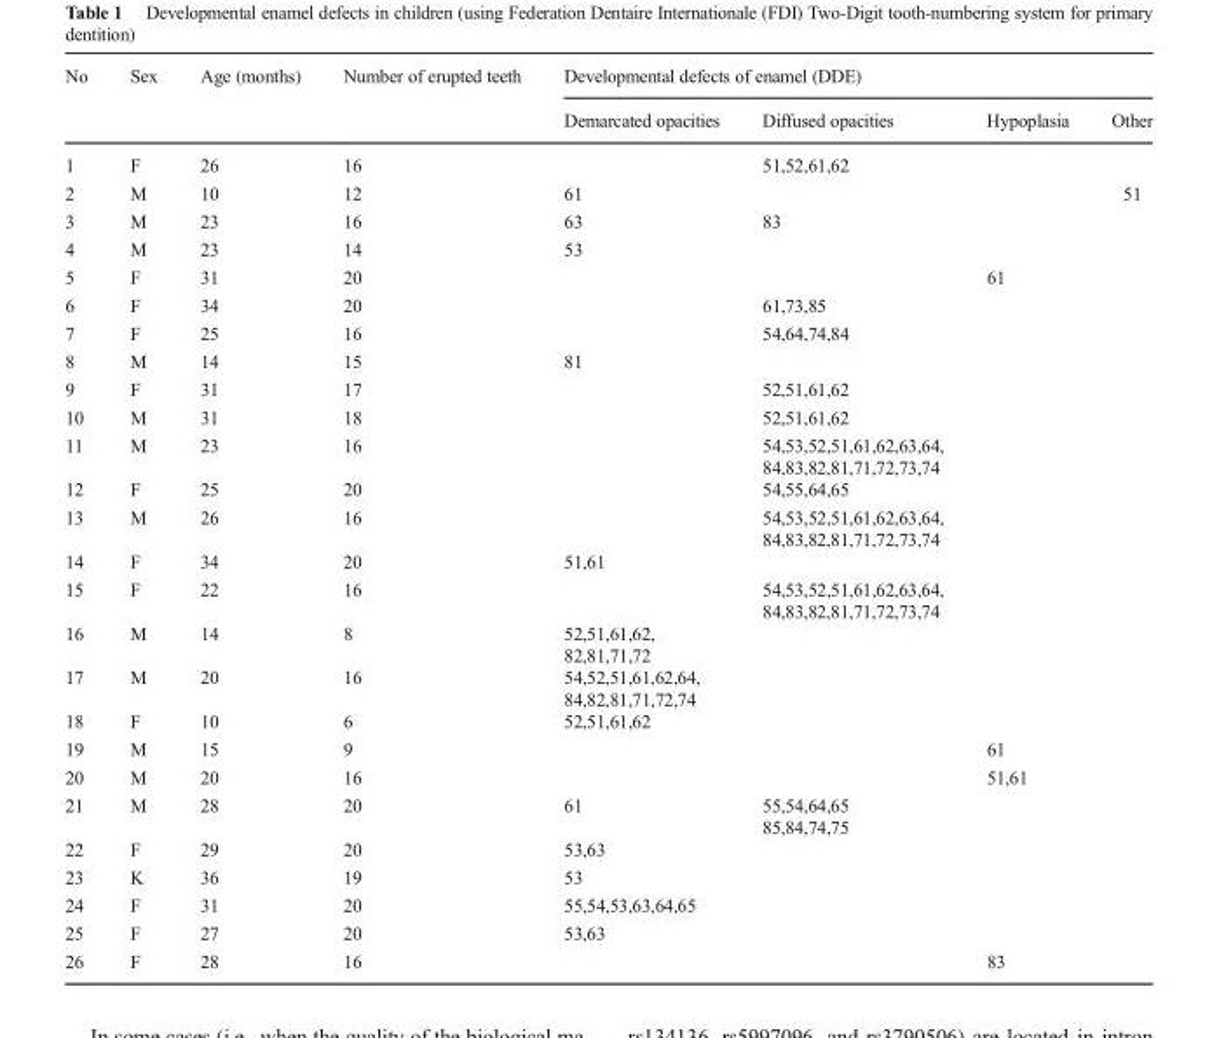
<table><thead><tr><td rowspan="2">No</td><td rowspan="2">Sex</td><td rowspan="2">Age (months)</td><td rowspan="2">Number of erupted teeth</td><td colspan="4">Developmental defects of enamel (DDE)</td></tr><tr><td>Demarcated opacities</td><td>Diffused opacities</td><td>Hypoplasia</td><td>Other</td></tr></thead><tbody><tr><td>1</td><td>F</td><td>26</td><td>16</td><td></td><td>51,52,61,62</td><td></td><td></td></tr><tr><td>2</td><td>M</td><td>10</td><td>12</td><td>61</td><td></td><td></td><td>51</td></tr><tr><td>3</td><td>M</td><td>23</td><td>16</td><td>63</td><td>83</td><td></td><td></td></tr><tr><td>4</td><td>M</td><td>23</td><td>14</td><td>53</td><td></td><td></td><td></td></tr><tr><td>5</td><td>F</td><td>31</td><td>20</td><td></td><td></td><td>61</td><td></td></tr><tr><td>6</td><td>F</td><td>34</td><td>20</td><td></td><td>61,73,85</td><td></td><td></td></tr><tr><td>7</td><td>F</td><td>25</td><td>16</td><td></td><td>54,64,74,84</td><td></td><td></td></tr><tr><td>8</td><td>M</td><td>14</td><td>15</td><td>81</td><td></td><td></td><td></td></tr><tr><td>9</td><td>F</td><td>31</td><td>17</td><td></td><td>52,51,61,62</td><td></td><td></td></tr><tr><td>10</td><td>M</td><td>31</td><td>18</td><td></td><td>52,51,61,62</td><td></td><td></td></tr><tr><td>11</td><td>M</td><td>23</td><td>16</td><td></td><td>54,53,52,51,61,62,63,64, 84,83,82,81,71,72,73,74</td><td></td><td></td></tr><tr><td>12</td><td>F</td><td>25</td><td>20</td><td></td><td>54,55,64,65</td><td></td><td></td></tr><tr><td>13</td><td>M</td><td>26</td><td>16</td><td></td><td>54,53,52,51,61,62,63,64, 84,83,82,81,71,72,73,74</td><td></td><td></td></tr><tr><td>14</td><td>F</td><td>34</td><td>20</td><td>51,61</td><td></td><td></td><td></td></tr><tr><td>15</td><td>F</td><td>22</td><td>16</td><td></td><td>54,53,52,51,61,62,63,64, 84,83,82,81,71,72,73,74</td><td></td><td></td></tr><tr><td>16</td><td>M</td><td>14</td><td>8</td><td>52,51,61,62, 82,81,71,72</td><td></td><td></td><td></td></tr><tr><td>17</td><td>M</td><td>20</td><td>16</td><td>54,52,51,61,62,64, 84,82,81,71,72,74</td><td></td><td></td><td></td></tr><tr><td>18</td><td>F</td><td>10</td><td>6</td><td>52,51,61,62</td><td></td><td></td><td></td></tr><tr><td>19</td><td>M</td><td>15</td><td>9</td><td></td><td></td><td>61</td><td></td></tr><tr><td>20</td><td>M</td><td>20</td><td>16</td><td></td><td></td><td>51,61</td><td></td></tr><tr><td>21</td><td>M</td><td>28</td><td>20</td><td>61</td><td>55,54,64,65 85,84,74,75</td><td></td><td></td></tr><tr><td>22</td><td>F</td><td>29</td><td>20</td><td>53,63</td><td></td><td></td><td></td></tr><tr><td>23</td><td>K</td><td>36</td><td>19</td><td>53</td><td></td><td></td><td></td></tr><tr><td>24</td><td>F</td><td>31</td><td>20</td><td>55,54,53,63,64,65</td><td></td><td></td><td></td></tr><tr><td>25</td><td>F</td><td>27</td><td>20</td><td>53,63</td><td></td><td></td><td></td></tr><tr><td>26</td><td>F</td><td>28</td><td>16</td><td></td><td></td><td>83</td><td></td></tr></tbody></table>